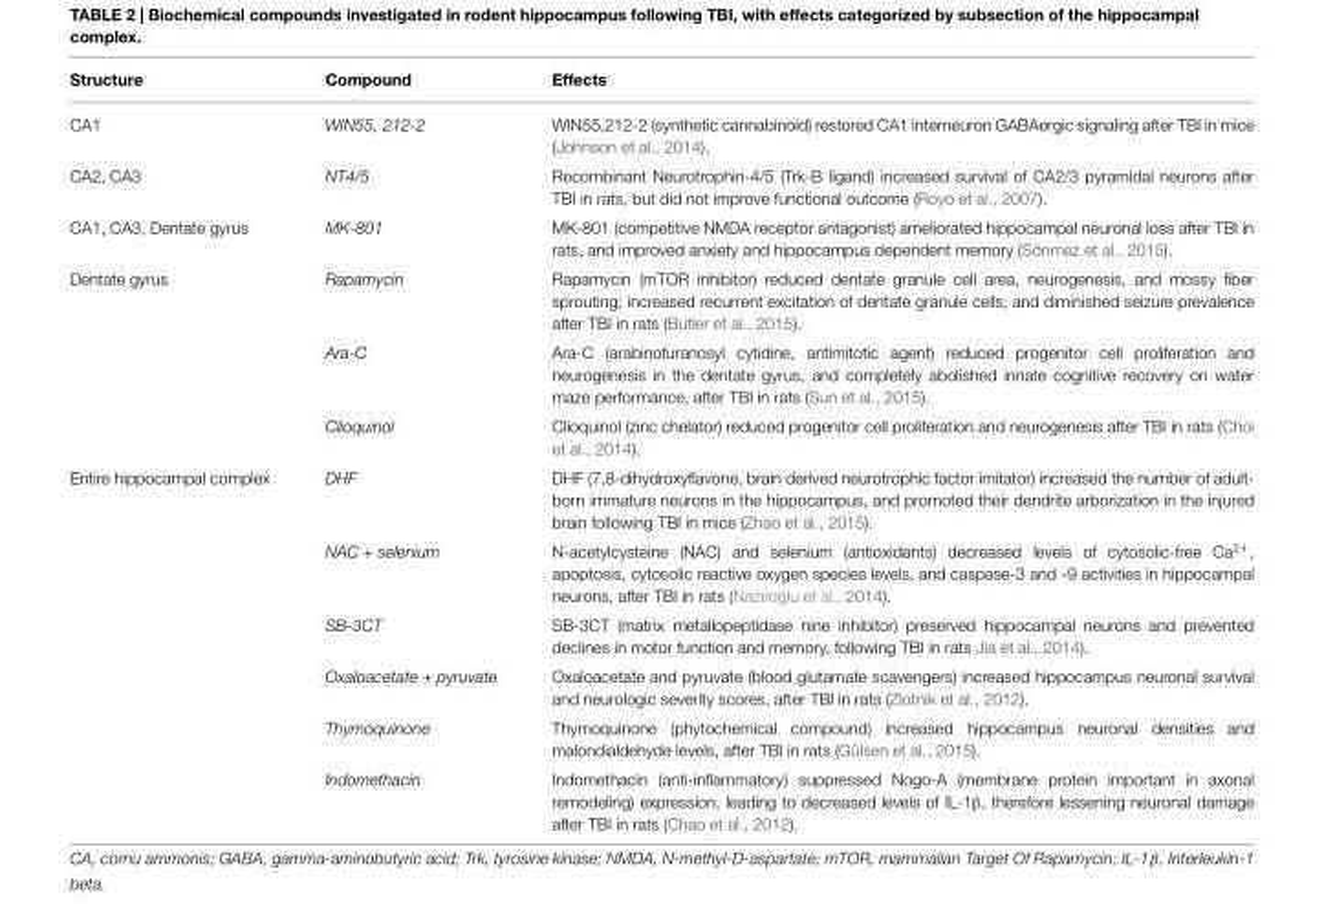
<table><thead><tr><td>Structure</td><td>Compound</td><td>Effects</td></tr></thead><tbody><tr><td>CA1</td><td>WIN55, 212-2</td><td>WIN55,212-2 (synthetic cannabinoid) restored CA1 interneuron GABAergic signaling after TBI in mice (Johnson et al., 2014).</td></tr><tr><td>CA2, CA3</td><td>NT4/5</td><td>Recombinant Neurotrophin-4/5 (Trk-B ligand) increased survival of CA2/3 pyramidal neurons after TBI in rats, but did not improve functional outcome (Royo et al., 2007).</td></tr><tr><td>CA1, CA3, Dentate gyrus</td><td>MK-801</td><td>MK-801 (competitive NMDA receptor antagonist) ameliorated hippocampal neuronal loss after TBI in rats, and improved anxiety and hippocampus dependent memory (Sönmez et al., 2015).</td></tr><tr><td rowspan="3">Dentate gyrus</td><td>Rapamycin</td><td>Rapamycin (mTOR inhibitor) reduced dentate granule cell area, neurogenesis, and mossy fiber sprouting; increased recurrent excitation of dentate granule cells; and diminished seizure prevalence after TBI in rats (Butler et al., 2015).</td></tr><tr><td>Ara-C</td><td>Ara-C (arabinofuranosyl cytidine, antimitotic agent) reduced progenitor cell proliferation and neurogenesis in the dentate gyrus, and completely abolished innate cognitive recovery on water maze performance, after TBI in rats (Sun et al., 2015).</td></tr><tr><td>Clioquinol</td><td>Clioquinol (zinc chelator) reduced progenitor cell proliferation and neurogenesis after TBI in rats (Choi et al., 2014).</td></tr><tr><td rowspan="6">Entire hippocampal complex</td><td>DHF</td><td>DHF (7,8-dihydroxyflavone, brain derived neurotrophic factor imitator) increased the number of adult- born immature neurons in the hippocampus, and promoted their dendrite arborization in the injured brain following TBI in mice (Zhao et al., 2015).</td></tr><tr><td>NAC + selenium</td><td>N-acetylcysteine (NAC) and selenium (antioxidants) decreased levels of cytosolic-free Ca2+, apoptosis, cytosolic reactive oxygen species levels, and caspase-3 and -9 activities in hippocampal neurons, after TBI in rats (Nazirog˘ lu et al., 2014).</td></tr><tr><td>SB-3CT</td><td>SB-3CT (matrix metallopeptidase nine inhibitor) preserved hippocampal neurons and prevented declines in motor function and memory, following TBI in rats Jia et al., 2014).</td></tr><tr><td>Oxaloacetate + pyruvate</td><td>Oxaloacetate and pyruvate (blood glutamate scavengers) increased hippocampus neuronal survival and neurologic severity scores, after TBI in rats (Zlotnik et al., 2012).</td></tr><tr><td>Thymoquinone</td><td>Thymoquinone (phytochemical compound) increased hippocampus neuronal densities and malondialdehyde levels, after TBI in rats (Gülsen et al., 2015).</td></tr><tr><td>Indomethacin</td><td>Indomethacin (anti-inflammatory) suppressed Nogo-A (membrane protein important in axonal remodeling) expression, leading to decreased levels of IL-1β, therefore lessening neuronal damage after TBI in rats (Chao et al., 2012).</td></tr></tbody></table>